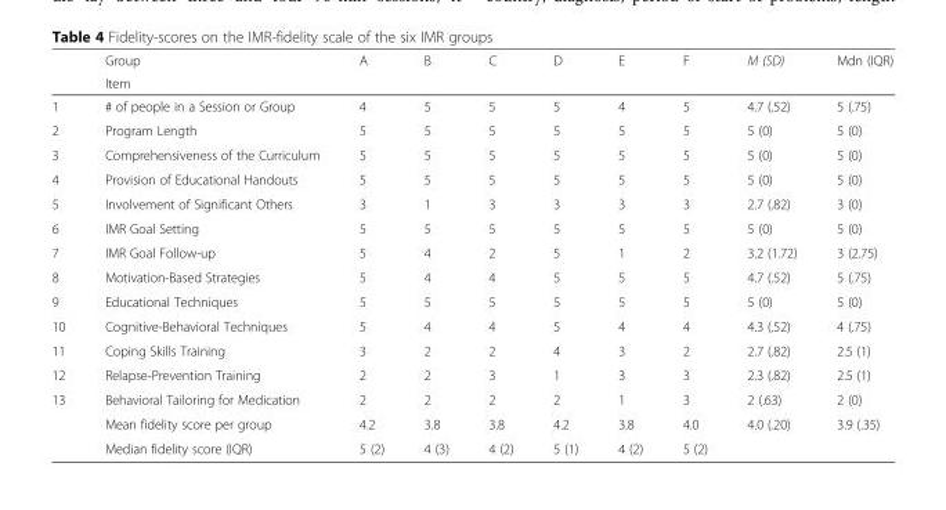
<table><thead><tr><td rowspan="2"></td><td rowspan="2">Group Item</td><td rowspan="2">A</td><td rowspan="2">B</td><td rowspan="2">C</td><td rowspan="2">D</td><td rowspan="2">E</td><td rowspan="2">F</td><td rowspan="2">M (SD)</td><td rowspan="2">Mdn (IQR)</td></tr><tr></tr></thead><tbody><tr><td>1</td><td># of people in a Session or Group</td><td>4</td><td>5</td><td>5</td><td>5</td><td>4</td><td>5</td><td>4.7 (.52)</td><td>5 (.75)</td></tr><tr><td>2</td><td>Program Length</td><td>5</td><td>5</td><td>5</td><td>5</td><td>5</td><td>5</td><td>5 (0)</td><td>5 (0)</td></tr><tr><td>3</td><td>Comprehensiveness of the Curriculum</td><td>5</td><td>5</td><td>5</td><td>5</td><td>5</td><td>5</td><td>5 (0)</td><td>5 (0)</td></tr><tr><td>4</td><td>Provision of Educational Handouts</td><td>5</td><td>5</td><td>5</td><td>5</td><td>5</td><td>5</td><td>5 (0)</td><td>5 (0)</td></tr><tr><td>5</td><td>Involvement of Significant Others</td><td>3</td><td>1</td><td>3</td><td>3</td><td>3</td><td>3</td><td>2.7 (.82)</td><td>3 (0)</td></tr><tr><td>6</td><td>IMR Goal Setting</td><td>5</td><td>5</td><td>5</td><td>5</td><td>5</td><td>5</td><td>5 (0)</td><td>5 (0)</td></tr><tr><td>7</td><td>IMR Goal Follow-up</td><td>5</td><td>4</td><td>2</td><td>5</td><td>1</td><td>2</td><td>3.2 (1.72)</td><td>3 (2.75)</td></tr><tr><td>8</td><td>Motivation-Based Strategies</td><td>5</td><td>4</td><td>4</td><td>5</td><td>5</td><td>5</td><td>4.7 (.52)</td><td>5 (.75)</td></tr><tr><td>9</td><td>Educational Techniques</td><td>5</td><td>5</td><td>5</td><td>5</td><td>5</td><td>5</td><td>5 (0)</td><td>5 (0)</td></tr><tr><td>10</td><td>Cognitive-Behavioral Techniques</td><td>5</td><td>4</td><td>4</td><td>5</td><td>4</td><td>4</td><td>4.3 (.52)</td><td>4 (.75)</td></tr><tr><td>11</td><td>Coping Skills Training</td><td>3</td><td>2</td><td>2</td><td>4</td><td>3</td><td>2</td><td>2.7 (.82)</td><td>2.5 (1)</td></tr><tr><td>12</td><td>Relapse-Prevention Training</td><td>2</td><td>2</td><td>3</td><td>1</td><td>3</td><td>3</td><td>2.3 (.82)</td><td>2.5 (1)</td></tr><tr><td rowspan="3">13</td><td>Behavioral Tailoring for Medication</td><td>2</td><td>2</td><td>2</td><td>2</td><td>1</td><td>3</td><td>2 (.63)</td><td>2 (0)</td></tr><tr><td>Mean fidelity score per group</td><td>4.2</td><td>3.8</td><td>3.8</td><td>4.2</td><td>3.8</td><td>4.0</td><td>4.0 (.20)</td><td>3.9 (.35)</td></tr><tr><td>Median fidelity score (IQR)</td><td>5 (2)</td><td>4 (3)</td><td>4 (2)</td><td>5 (1)</td><td>4 (2)</td><td>5 (2)</td><td></td><td></td></tr></tbody></table>